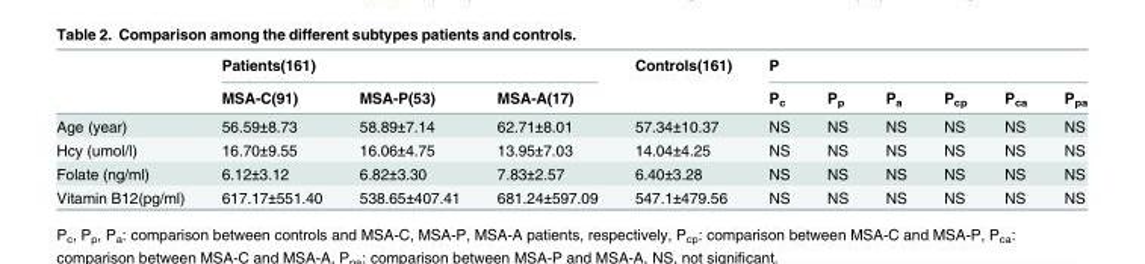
<table><thead><tr><td rowspan="2"></td><td colspan="3">Patients(161)</td><td rowspan="2">Controls(161)</td><td colspan="6">P</td></tr><tr><td>MSA-C(91)</td><td>MSA-P(53)</td><td>MSA-A(17)</td><td>P<sub>c</sub></td><td>P<sub>p</sub></td><td>P<sub>a</sub></td><td>P<sub>cp</sub></td><td>P<sub>ca</sub></td><td>P<sub>pa</sub></td></tr></thead><tbody><tr><td>Age (year)</td><td>56.59±8.73</td><td>58.89±7.14</td><td>62.71±8.01</td><td>57.34±10.37</td><td>NS</td><td>NS</td><td>NS</td><td>NS</td><td>NS</td><td>NS</td></tr><tr><td>Hcy (umol/l)</td><td>16.70±9.55</td><td>16.06±4.75</td><td>13.95±7.03</td><td>14.04±4.25</td><td>NS</td><td>NS</td><td>NS</td><td>NS</td><td>NS</td><td>NS</td></tr><tr><td>Folate (ng/ml)</td><td>6.12±3.12</td><td>6.82±3.30</td><td>7.83±2.57</td><td>6.40±3.28</td><td>NS</td><td>NS</td><td>NS</td><td>NS</td><td>NS</td><td>NS</td></tr><tr><td>Vitamin B12(pg/ml)</td><td>617.17±551.40</td><td>538.65±407.41</td><td>681.24±597.09</td><td>547.1±479.56</td><td>NS</td><td>NS</td><td>NS</td><td>NS</td><td>NS</td><td>NS</td></tr></tbody></table>